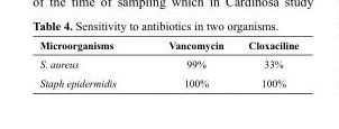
<table><thead><tr><td>Microorganisms</td><td>Vancomycin</td><td>Cloxaciline</td></tr></thead><tbody><tr><td>S. aureus</td><td>99%</td><td>33%</td></tr><tr><td>Staph epidermidis</td><td>100%</td><td>100%</td></tr></tbody></table>